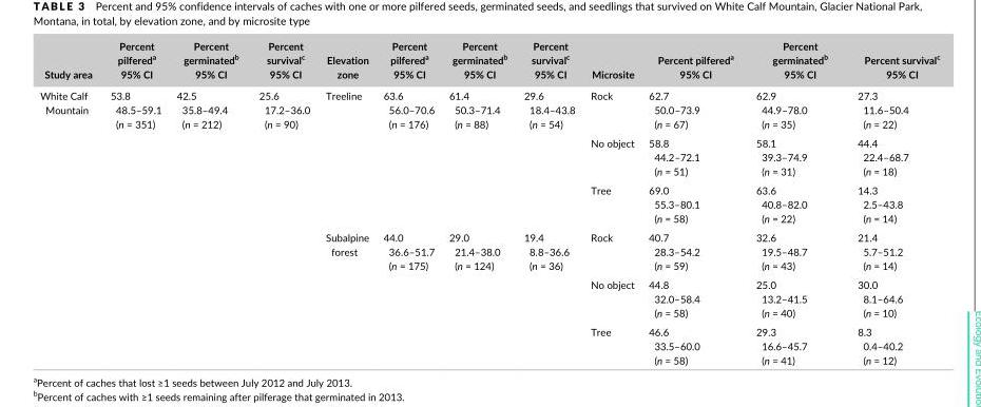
<table><thead><tr><td>Study area</td><td>Percent pilfered<sup>a</sup> 95% CI</td><td>Percent germinated<sup>b</sup> 95% CI</td><td>Percent survival<sup>c</sup> 95% CI</td><td>Elevation zone</td><td>Percent pilfered<sup>a</sup> 95% CI</td><td>Percent germinated<sup>b</sup> 95% CI</td><td>Percent survival<sup>c</sup> 95% CI</td><td>Microsite</td><td>Percent pilfered<sup>a</sup> 95% CI</td><td>Percent germinated<sup>b</sup> 95% CI</td><td>Percent survival<sup>c</sup> 95% CI</td></tr></thead><tbody><tr><td rowspan="6">White Calf Mountain</td><td rowspan="6">53.8 48.5–59.1 (n = 351)</td><td rowspan="6">42.5 35.8–49.4 (n = 212)</td><td rowspan="6">25.6 17.2–36.0 (n = 90)</td><td rowspan="3">Treeline</td><td rowspan="3">63.6 56.0–70.6 (n = 176)</td><td rowspan="3">61.4 50.3–71.4 (n = 88)</td><td rowspan="3">29.6 18.4–43.8 (n = 54)</td><td>Rock</td><td>62.7 50.0–73.9 (n = 67)</td><td>62.9 44.9–78.0 (n = 35)</td><td>27.3 11.6–50.4 (n = 22)</td></tr><tr><td>No object</td><td>58.8 44.2–72.1 (n = 51)</td><td>58.1 39.3–74.9 (n = 31)</td><td>44.4 22.4–68.7 (n = 18)</td></tr><tr><td>Tree</td><td>69.0 55.3–80.1 (n = 58)</td><td>63.6 40.8–82.0 (n = 22)</td><td>14.3 2.5–43.8 (n = 14)</td></tr><tr><td rowspan="3">Subalpine forest</td><td rowspan="3">44.0 36.6–51.7 (n = 175)</td><td rowspan="3">29.0 21.4–38.0 (n = 124)</td><td rowspan="3">19.4 8.8–36.6 (n = 36)</td><td>Rock</td><td>40.7 28.3–54.2 (n = 59)</td><td>32.6 19.5–48.7 (n = 43)</td><td>21.4 5.7–51.2 (n = 14)</td></tr><tr><td>No object</td><td>44.8 32.0–58.4 (n = 58)</td><td>25.0 13.2–41.5 (n = 40)</td><td>30.0 8.1–64.6 (n = 10)</td></tr><tr><td>Tree</td><td>46.6 33.5–60.0 (n = 58)</td><td>29.3 16.6–45.7 (n = 41)</td><td>8.3 0.4–40.2 (n = 12)</td></tr></tbody></table>